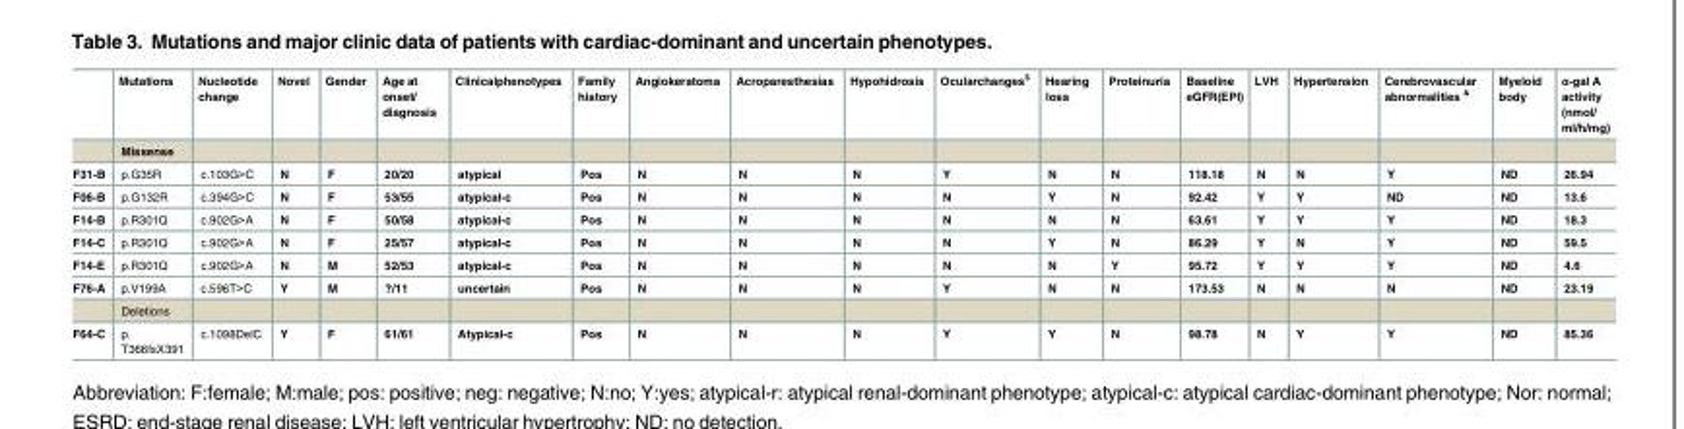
<table><thead><tr><td></td><td>Mutations</td><td>Nucleotide change</td><td>Novel</td><td>Gender</td><td>Age at onset/ diagnosis</td><td>Clinicalphenotypes</td><td>Family history</td><td>Angiokeratoma</td><td>Acroparesthesias</td><td>Hypohidrosis</td><td>Ocularchanges<sup>$</sup></td><td>Hearing loss</td><td>Proteinuria</td><td>Baseline eGFR(EPI)</td><td>LVH</td><td>Hypertension</td><td>Cerebrovascular abnormalities <sup>&amp;</sup></td><td>Myeloid body</td><td>α-gal A activity (nmol/ ml/h/mg)</td></tr></thead><tbody><tr><td></td><td>Missense</td><td></td><td></td><td></td><td></td><td></td><td></td><td></td><td></td><td></td><td></td><td></td><td></td><td></td><td></td><td></td><td></td><td></td><td></td></tr><tr><td>F31-B</td><td>p.G35R</td><td>c.103G&gt;C</td><td>N</td><td>F</td><td>20/20</td><td>atypical</td><td>Pos</td><td>N</td><td>N</td><td>N</td><td>Y</td><td>N</td><td>N</td><td>118.18</td><td>N</td><td>N</td><td>Y</td><td>ND</td><td>26.94</td></tr><tr><td>F06-B</td><td>p.G132R</td><td>c.394G&gt;C</td><td>N</td><td>F</td><td>53/55</td><td>atypical-c</td><td>Pos</td><td>N</td><td>N</td><td>N</td><td>N</td><td>Y</td><td>N</td><td>92.42</td><td>Y</td><td>Y</td><td>ND</td><td>ND</td><td>13.6</td></tr><tr><td>F14-B</td><td>p.R301Q</td><td>c.902G&gt;A</td><td>N</td><td>F</td><td>50/58</td><td>atypical-c</td><td>Pos</td><td>N</td><td>N</td><td>N</td><td>N</td><td>N</td><td>N</td><td>63.61</td><td>Y</td><td>Y</td><td>Y</td><td>ND</td><td>18.3</td></tr><tr><td>F14-C</td><td>p.R301Q</td><td>c.902G&gt;A</td><td>N</td><td>F</td><td>25/57</td><td>atypical-c</td><td>Pos</td><td>N</td><td>N</td><td>N</td><td>N</td><td>Y</td><td>N</td><td>86.29</td><td>Y</td><td>N</td><td>Y</td><td>ND</td><td>59.5</td></tr><tr><td>F14-E</td><td>p.R301Q</td><td>c.902G&gt;A</td><td>N</td><td>M</td><td>52/53</td><td>atypical-c</td><td>Pos</td><td>N</td><td>N</td><td>N</td><td>N</td><td>N</td><td>Y</td><td>95.72</td><td>Y</td><td>Y</td><td>Y</td><td>ND</td><td>4.6</td></tr><tr><td rowspan="2">F76-A</td><td>p.V199A</td><td>c.596T&gt;C</td><td>Y</td><td>M</td><td>?/11</td><td>uncertain</td><td>Pos</td><td>N</td><td>N</td><td>N</td><td>Y</td><td>N</td><td>N</td><td>173.53</td><td>N</td><td>N</td><td>N</td><td>ND</td><td>23.19</td></tr><tr><td>Deletions</td><td></td><td></td><td></td><td></td><td></td><td></td><td></td><td></td><td></td><td></td><td></td><td></td><td></td><td></td><td></td><td></td><td></td><td></td></tr><tr><td>F64-C</td><td>p. T366fsX391</td><td>c.1098DelC</td><td>Y</td><td>F</td><td>61/61</td><td>Atypical-c</td><td>Pos</td><td>N</td><td>N</td><td>N</td><td>Y</td><td>Y</td><td>N</td><td>98.78</td><td>N</td><td>Y</td><td>Y</td><td>ND</td><td>85.36</td></tr></tbody></table>